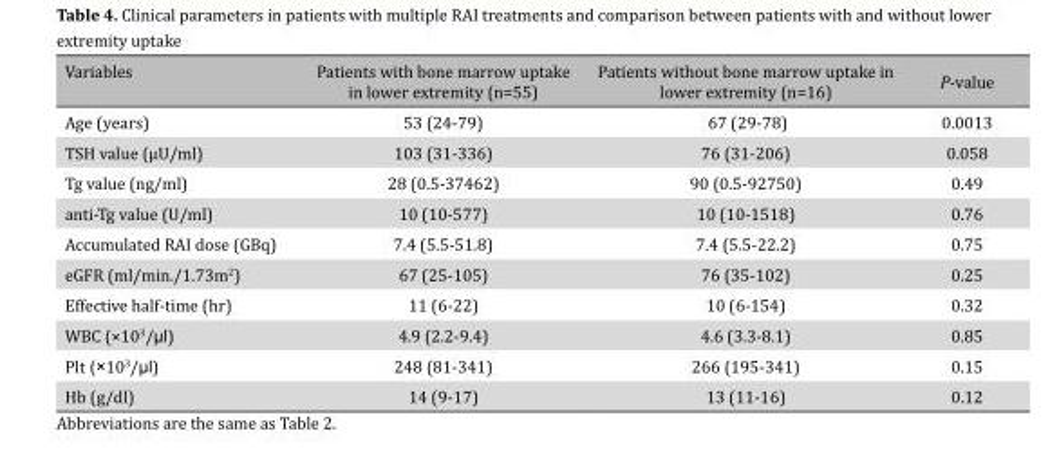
<table><thead><tr><td>Variables</td><td>Patients with bone marrow uptake in lower extremity (n=55)</td><td>Patients without bone marrow uptake in lower extremity (n=16)</td><td>P-value</td></tr></thead><tbody><tr><td>Age (years)</td><td>53 (24-79)</td><td>67 (29-78)</td><td>0.0013</td></tr><tr><td>TSH value (μU/ml)</td><td>103 (31-336)</td><td>76 (31-206)</td><td>0.058</td></tr><tr><td>Tg value (ng/ml)</td><td>28 (0.5-37462)</td><td>90 (0.5-92750)</td><td>0.49</td></tr><tr><td>anti-Tg value (U/ml)</td><td>10 (10-577)</td><td>10 (10-1518)</td><td>0.76</td></tr><tr><td>Accumulated RAI dose (GBq)</td><td>7.4 (5.5-51.8)</td><td>7.4 (5.5-22.2)</td><td>0.75</td></tr><tr><td>eGFR (ml/min./1.73m<sup>2</sup>)</td><td>67 (25-105)</td><td>76 (35-102)</td><td>0.25</td></tr><tr><td>Effective half-time (hr)</td><td>11 (6-22)</td><td>10 (6-154)</td><td>0.32</td></tr><tr><td>WBC (×10<sup>3</sup>/μl)</td><td>4.9 (2.2-9.4)</td><td>4.6 (3.3-8.1)</td><td>0.85</td></tr><tr><td>Plt (×10<sup>3</sup>/μl)</td><td>248 (81-341)</td><td>266 (195-341)</td><td>0.15</td></tr><tr><td>Hb (g/dl)</td><td>14 (9-17)</td><td>13 (11-16)</td><td>0.12</td></tr></tbody></table>